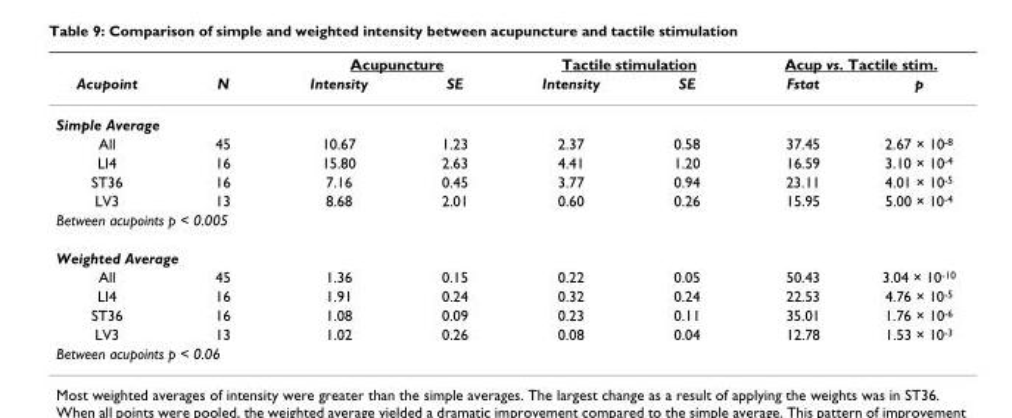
<table><thead><tr><td rowspan="2">Acupoint</td><td rowspan="2">N</td><td colspan="2">Acupuncture</td><td colspan="2">Tactile stimulation</td><td colspan="2">Acup vs. Tactile stim.</td></tr><tr><td>Intensity</td><td>SE</td><td>Intensity</td><td>SE</td><td>Fstat</td><td>p</td></tr></thead><tbody><tr><td colspan="8">Simple Average</td></tr><tr><td>All</td><td>45</td><td>10.67</td><td>1.23</td><td>2.37</td><td>0.58</td><td>37.45</td><td>2.67 × 10<sup>-8</sup></td></tr><tr><td>LI4</td><td>16</td><td>15.80</td><td>2.63</td><td>4.41</td><td>1.20</td><td>16.59</td><td>3.10 × 10<sup>-4</sup></td></tr><tr><td>ST36</td><td>16</td><td>7.16</td><td>0.45</td><td>3.77</td><td>0.94</td><td>23.11</td><td>4.01 × 10<sup>-5</sup></td></tr><tr><td>LV3</td><td>13</td><td>8.68</td><td>2.01</td><td>0.60</td><td>0.26</td><td>15.95</td><td>5.00 × 10<sup>-4</sup></td></tr><tr><td colspan="8">Between acupoints p &lt; 0.005</td></tr><tr><td colspan="8">Weighted Average</td></tr><tr><td>All</td><td>45</td><td>1.36</td><td>0.15</td><td>0.22</td><td>0.05</td><td>50.43</td><td>3.04 × 10<sup>-10</sup></td></tr><tr><td>LI4</td><td>16</td><td>1.91</td><td>0.24</td><td>0.32</td><td>0.24</td><td>22.53</td><td>4.76 × 10<sup>-5</sup></td></tr><tr><td>ST36</td><td>16</td><td>1.08</td><td>0.09</td><td>0.23</td><td>0.11</td><td>35.01</td><td>1.76 × 10<sup>-6</sup></td></tr><tr><td>LV3</td><td>13</td><td>1.02</td><td>0.26</td><td>0.08</td><td>0.04</td><td>12.78</td><td>1.53 × 10<sup>-3</sup></td></tr><tr><td colspan="8">Between acupoints p &lt; 0.06</td></tr></tbody></table>